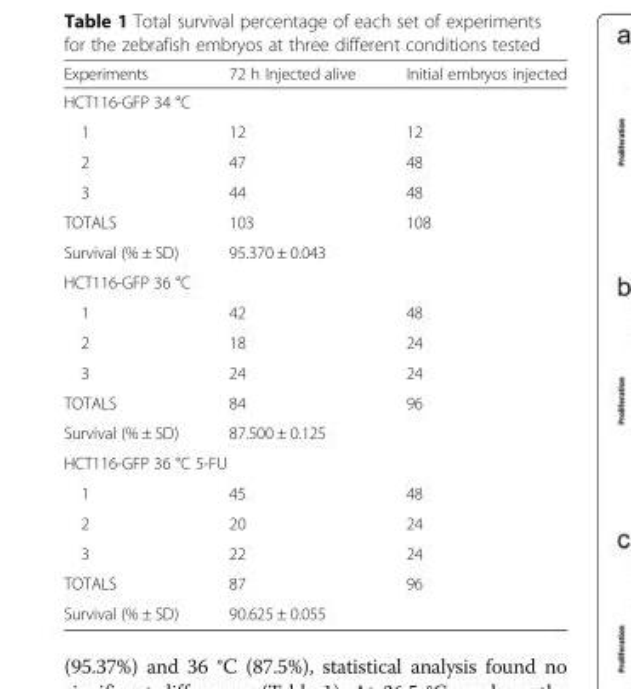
<table><thead><tr><td>Experiments</td><td>72 h Injected alive</td><td>Initial embryos injected</td></tr></thead><tbody><tr><td colspan="3">HCT116-GFP 34 °C</td></tr><tr><td>1</td><td>12</td><td>12</td></tr><tr><td>2</td><td>47</td><td>48</td></tr><tr><td>3</td><td>44</td><td>48</td></tr><tr><td>TOTALS</td><td>103</td><td>108</td></tr><tr><td>Survival (% ± SD)</td><td colspan="2">95.370 ± 0.043</td></tr><tr><td colspan="3">HCT116-GFP 36 °C</td></tr><tr><td>1</td><td>42</td><td>48</td></tr><tr><td>2</td><td>18</td><td>24</td></tr><tr><td>3</td><td>24</td><td>24</td></tr><tr><td>TOTALS</td><td>84</td><td>96</td></tr><tr><td>Survival (% ± SD)</td><td colspan="2">87.500 ± 0.125</td></tr><tr><td colspan="3">HCT116-GFP 36 °C 5-FU</td></tr><tr><td>1</td><td>45</td><td>48</td></tr><tr><td>2</td><td>20</td><td>24</td></tr><tr><td>3</td><td>22</td><td>24</td></tr><tr><td>TOTALS</td><td>87</td><td>96</td></tr><tr><td>Survival (% ± SD)</td><td colspan="2">90.625 ± 0.055</td></tr></tbody></table>